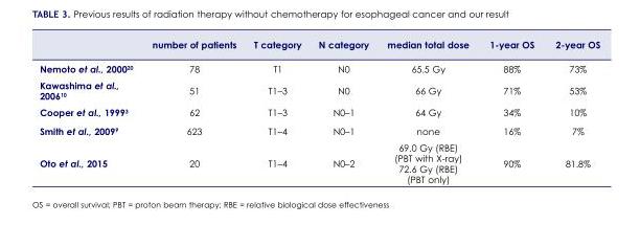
<table><thead><tr><td></td><td>number of patients</td><td>T category</td><td>N category</td><td>median total dose</td><td>1-year OS</td><td>2-year OS</td></tr></thead><tbody><tr><td>Nemoto et al., 2000<sup>20</sup></td><td>78</td><td>T1</td><td>N0</td><td>65.5 Gy</td><td>88%</td><td>73%</td></tr><tr><td>Kawashima et al., 2006<sup>10</sup></td><td>51</td><td>T1–3</td><td>N0</td><td>66 Gy</td><td>71%</td><td>53%</td></tr><tr><td>Cooper et al., 1999<sup>3</sup></td><td>62</td><td>T1–3</td><td>N0–1</td><td>64 Gy</td><td>34%</td><td>10%</td></tr><tr><td>Smith et al., 2009<sup>9</sup></td><td>623</td><td>T1–4</td><td>N0–1</td><td>none</td><td>16%</td><td>7%</td></tr><tr><td>Oto et al., 2015</td><td>20</td><td>T1–4</td><td>N0–2</td><td>69.0 Gy (RBE) (PBT with X-ray) 72.6 Gy (RBE) (PBT only)</td><td>90%</td><td>81.8%</td></tr></tbody></table>